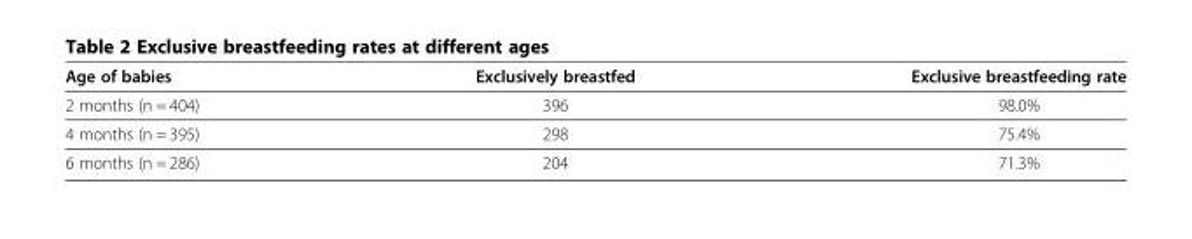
<table><thead><tr><td>Age of babies</td><td>Exclusively breastfed</td><td>Exclusive breastfeeding rate</td></tr></thead><tbody><tr><td>2 months (n = 404)</td><td>396</td><td>98.0%</td></tr><tr><td>4 months (n = 395)</td><td>298</td><td>75.4%</td></tr><tr><td>6 months (n = 286)</td><td>204</td><td>71.3%</td></tr></tbody></table>